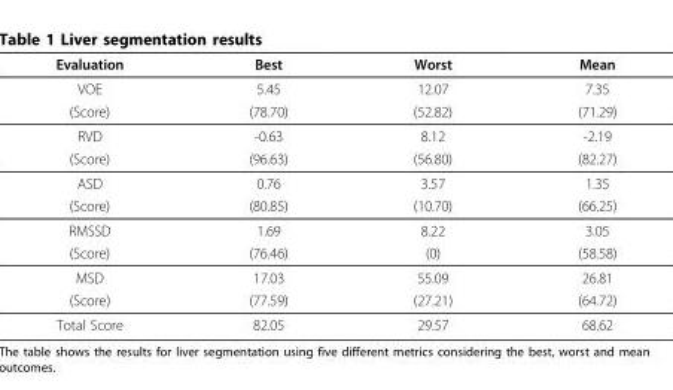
<table><thead><tr><td>Evaluation</td><td>Best</td><td>Worst</td><td>Mean</td></tr></thead><tbody><tr><td>VOE</td><td>5.45</td><td>12.07</td><td>7.35</td></tr><tr><td>(Score)</td><td>(78.70)</td><td>(52.82)</td><td>(71.29)</td></tr><tr><td>RVD</td><td>-0.63</td><td>8.12</td><td>-2.19</td></tr><tr><td>(Score)</td><td>(96.63)</td><td>(56.80)</td><td>(82.27)</td></tr><tr><td>ASD</td><td>0.76</td><td>3.57</td><td>1.35</td></tr><tr><td>(Score)</td><td>(80.85)</td><td>(10.70)</td><td>(66.25)</td></tr><tr><td>RMSSD</td><td>1.69</td><td>8.22</td><td>3.05</td></tr><tr><td>(Score)</td><td>(76.46)</td><td>(0)</td><td>(58.58)</td></tr><tr><td>MSD</td><td>17.03</td><td>55.09</td><td>26.81</td></tr><tr><td>(Score)</td><td>(77.59)</td><td>(27.21)</td><td>(64.72)</td></tr><tr><td>Total Score</td><td>82.05</td><td>29.57</td><td>68.62</td></tr></tbody></table>